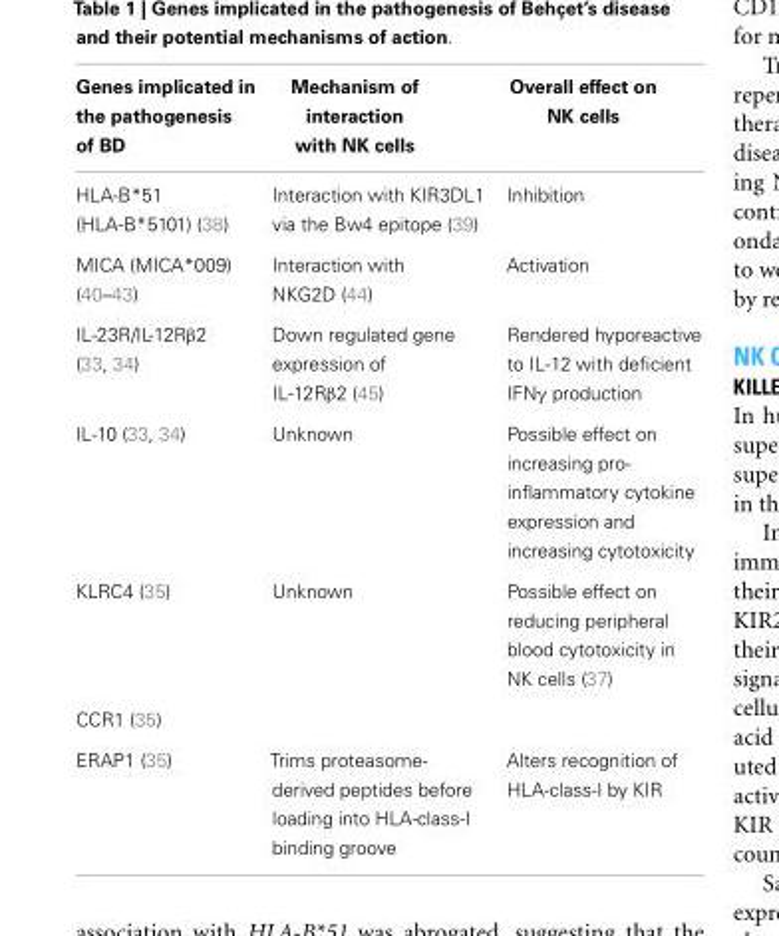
<table><thead><tr><td>Genes implicated in the pathogenesis of BD</td><td>Mechanism of interaction with NK cells</td><td>Overall effect on NK cells</td></tr></thead><tbody><tr><td>HLA-B*51 (HLA-B*5101) (38)</td><td>Interaction with KIR3DL1 via the Bw4 epitope (39)</td><td>Inhibition</td></tr><tr><td>MICA (MICA*009) (40–43)</td><td>Interaction with NKG2D (44)</td><td>Activation</td></tr><tr><td>IL-23R/IL-12Rβ2 (33, 34)</td><td>Down regulated gene expression of IL-12Rβ2 (45)</td><td>Rendered hyporeactive to IL-12 with deficient IFNγ production</td></tr><tr><td>IL-10 (33, 34)</td><td>Unknown</td><td>Possible effect on increasing pro- inflammatory cytokine expression and increasing cytotoxicity</td></tr><tr><td>KLRC4 (35)</td><td>Unknown</td><td>Possible effect on reducing peripheral blood cytotoxicity in NK cells (37)</td></tr><tr><td colspan="3">CCR1 (35)</td></tr><tr><td>ERAP1 (35)</td><td>Trims proteasome- derived peptides before loading into HLA-class-I binding groove</td><td>Alters recognition of HLA-class-I by KIR</td></tr></tbody></table>